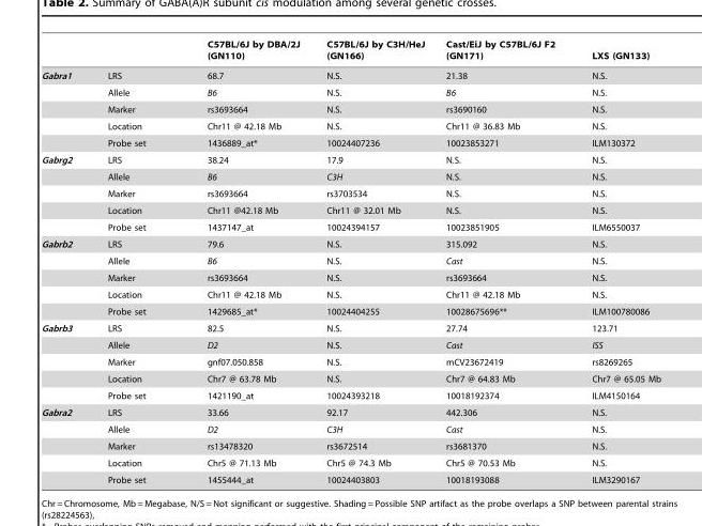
<table><thead><tr><td></td><td></td><td>C57BL/6J by DBA/2J (GN110)</td><td>C57BL/6J by C3H/HeJ (GN166)</td><td>Cast/EiJ by C57BL/6J F2 (GN171)</td><td>LXS (GN133)</td></tr></thead><tbody><tr><td rowspan="5">Gabra1</td><td>LRS</td><td>68.7</td><td>N.S.</td><td>21.38</td><td>N.S.</td></tr><tr><td>Allele</td><td>B6</td><td>N.S.</td><td>B6</td><td>N.S.</td></tr><tr><td>Marker</td><td>rs3693664</td><td>N.S.</td><td>rs3690160</td><td>N.S.</td></tr><tr><td>Location</td><td>Chr11 @ 42.18 Mb</td><td>N.S.</td><td>Chr11 @ 36.83 Mb</td><td>N.S.</td></tr><tr><td>Probe set</td><td>1436889_at*</td><td>10024407236</td><td>10023853271</td><td>ILM130372</td></tr><tr><td rowspan="5">Gabrg2</td><td>LRS</td><td>38.24</td><td>17.9</td><td>N.S.</td><td>N.S.</td></tr><tr><td>Allele</td><td>B6</td><td>C3H</td><td>N.S.</td><td>N.S.</td></tr><tr><td>Marker</td><td>rs3693664</td><td>rs3703534</td><td>N.S.</td><td>N.S.</td></tr><tr><td>Location</td><td>Chr11 @42.18 Mb</td><td>Chr11 @ 32.01 Mb</td><td>N.S.</td><td>N.S.</td></tr><tr><td>Probe set</td><td>1437147_at</td><td>10024394157</td><td>10023851905</td><td>ILM6550037</td></tr><tr><td rowspan="5">Gabrb2</td><td>LRS</td><td>79.6</td><td>N.S.</td><td>315.092</td><td>N.S.</td></tr><tr><td>Allele</td><td>B6</td><td>N.S.</td><td>Cast</td><td>N.S.</td></tr><tr><td>Marker</td><td>rs3693664</td><td>N.S.</td><td>rs3693664</td><td>N.S.</td></tr><tr><td>Location</td><td>Chr11 @ 42.18 Mb</td><td>N.S.</td><td>Chr11 @ 42.18 Mb</td><td>N.S.</td></tr><tr><td>Probe set</td><td>1429685_at*</td><td>10024404255</td><td>10028675696**</td><td>ILM100780086</td></tr><tr><td rowspan="5">Gabrb3</td><td>LRS</td><td>82.5</td><td>N.S.</td><td>27.74</td><td>123.71</td></tr><tr><td>Allele</td><td>D2</td><td>N.S.</td><td>Cast</td><td>ISS</td></tr><tr><td>Marker</td><td>gnf07.050.858</td><td>N.S.</td><td>mCV23672419</td><td>rs8269265</td></tr><tr><td>Location</td><td>Chr7 @ 63.78 Mb</td><td>N.S.</td><td>Chr7 @ 64.83 Mb</td><td>Chr7 @ 65.05 Mb</td></tr><tr><td>Probe set</td><td>1421190_at</td><td>10024393218</td><td>10018192374</td><td>ILM4150164</td></tr><tr><td rowspan="5">Gabra2</td><td>LRS</td><td>33.66</td><td>92.17</td><td>442.306</td><td>N.S.</td></tr><tr><td>Allele</td><td>D2</td><td>C3H</td><td>Cast</td><td>N.S.</td></tr><tr><td>Marker</td><td>rs13478320</td><td>rs3672514</td><td>rs3681370</td><td>N.S.</td></tr><tr><td>Location</td><td>Chr5 @ 71.13 Mb</td><td>Chr5 @ 74.3 Mb</td><td>Chr5 @ 70.53 Mb</td><td>N.S.</td></tr><tr><td>Probe set</td><td>1455444_at</td><td>10024403803</td><td>10018193088</td><td>ILM3290167</td></tr></tbody></table>